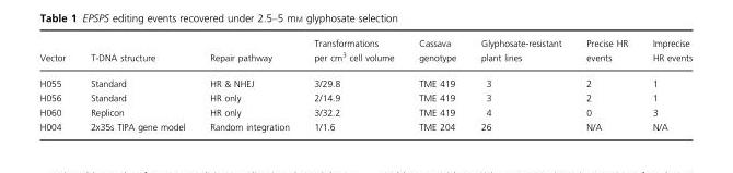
<table><thead><tr><td>Vector</td><td>T-DNA structure</td><td>Repair pathway</td><td>Transformations per cm<sup>3</sup> cell volume</td><td>Cassava genotype</td><td>Glyphosate-resistant plant lines</td><td>Precise HR events</td><td>Imprecise HR events</td></tr></thead><tbody><tr><td>H055</td><td>Standard</td><td>HR &amp; NHEJ</td><td>3/29.8</td><td>TME 419</td><td>3</td><td>2</td><td>1</td></tr><tr><td>H056</td><td>Standard</td><td>HR only</td><td>2/14.9</td><td>TME 419</td><td>3</td><td>2</td><td>1</td></tr><tr><td>H060</td><td>Replicon</td><td>HR only</td><td>3/32.2</td><td>TME 419</td><td>4</td><td>0</td><td>3</td></tr><tr><td>H004</td><td>2x35s TIPA gene model</td><td>Random integration</td><td>1/1.6</td><td>TME 204</td><td>26</td><td>N/A</td><td>N/A</td></tr></tbody></table>